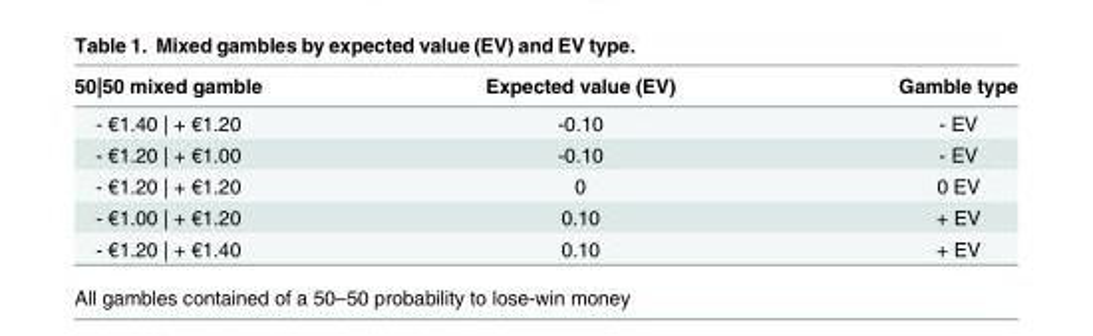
<table><thead><tr><td>50|50 mixed gamble</td><td>Expected value (EV)</td><td>Gamble type</td></tr></thead><tbody><tr><td>- €1.40 | + €1.20</td><td>-0.10</td><td>- EV</td></tr><tr><td>- €1.20 | + €1.00</td><td>-0.10</td><td>- EV</td></tr><tr><td>- €1.20 | + €1.20</td><td>0</td><td>0 EV</td></tr><tr><td>- €1.00 | + €1.20</td><td>0.10</td><td>+ EV</td></tr><tr><td>- €1.20 | + €1.40</td><td>0.10</td><td>+ EV</td></tr></tbody></table>